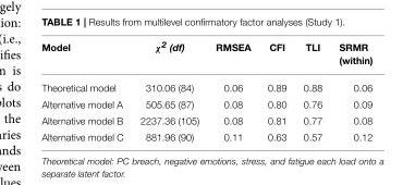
<table><thead><tr><td>Model</td><td>χ2 (df)</td><td>RMSEA</td><td>CFI</td><td>TLI</td><td>SRMR (within)</td></tr></thead><tbody><tr><td>Theoretical model</td><td>310.06 (84)</td><td>0.06</td><td>0.89</td><td>0.88</td><td>0.06</td></tr><tr><td>Alternative model A</td><td>505.65 (87)</td><td>0.08</td><td>0.80</td><td>0.76</td><td>0.09</td></tr><tr><td>Alternative model B</td><td>2237.36 (105)</td><td>0.08</td><td>0.81</td><td>0.77</td><td>0.08</td></tr><tr><td>Alternative model C</td><td>881.96 (90)</td><td>0.11</td><td>0.63</td><td>0.57</td><td>0.12</td></tr></tbody></table>